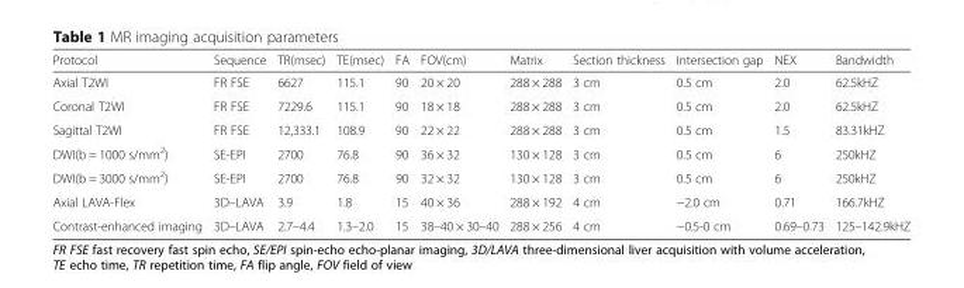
<table><thead><tr><td>Protocol</td><td>Sequence</td><td>TR(msec)</td><td>TE(msec)</td><td>FA</td><td>FOV(cm)</td><td>Matrix</td><td>Section thickness</td><td>Intersection gap</td><td>NEX</td><td>Bandwidth</td></tr></thead><tbody><tr><td>Axial T2WI</td><td>FR FSE</td><td>6627</td><td>115.1</td><td>90</td><td>20 × 20</td><td>288 × 288</td><td>3 cm</td><td>0.5 cm</td><td>2.0</td><td>62.5kHZ</td></tr><tr><td>Coronal T2WI</td><td>FR FSE</td><td>7229.6</td><td>115.1</td><td>90</td><td>18 × 18</td><td>288 × 288</td><td>3 cm</td><td>0.5 cm</td><td>2.0</td><td>62.5kHZ</td></tr><tr><td>Sagittal T2WI</td><td>FR FSE</td><td>12,333.1</td><td>108.9</td><td>90</td><td>22 × 22</td><td>288 × 288</td><td>3 cm</td><td>0.5 cm</td><td>1.5</td><td>83.31kHZ</td></tr><tr><td>DWI(b = 1000 s/mm<sup>2</sup>)</td><td>SE-EPI</td><td>2700</td><td>76.8</td><td>90</td><td>36 × 32</td><td>130 × 128</td><td>3 cm</td><td>0.5 cm</td><td>6</td><td>250kHZ</td></tr><tr><td>DWI(b = 3000 s/mm<sup>2</sup>)</td><td>SE-EPI</td><td>2700</td><td>76.8</td><td>90</td><td>32 × 32</td><td>130 × 128</td><td>3 cm</td><td>0.5 cm</td><td>6</td><td>250kHZ</td></tr><tr><td>Axial LAVA-Flex</td><td>3D–LAVA</td><td>3.9</td><td>1.8</td><td>15</td><td>40 × 36</td><td>288 × 192</td><td>4 cm</td><td>−2.0 cm</td><td>0.71</td><td>166.7kHZ</td></tr><tr><td>Contrast-enhanced imaging</td><td>3D–LAVA</td><td>2.7–4.4</td><td>1.3–2.0</td><td>15</td><td>38–40 × 30–40</td><td>288 × 256</td><td>4 cm</td><td>−0.5-0 cm</td><td>0.69–0.73</td><td>125–142.9kHZ</td></tr></tbody></table>